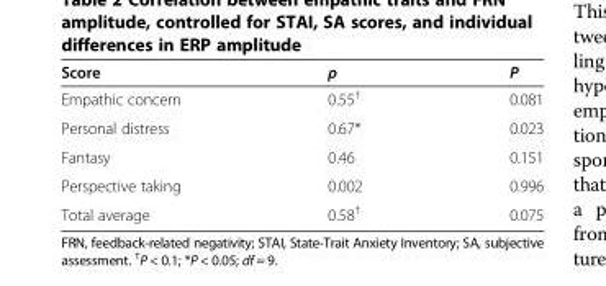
<table><thead><tr><td>Score</td><td>ρ</td><td>P</td></tr></thead><tbody><tr><td>Empathic concern</td><td>0.55<sup>†</sup></td><td>0.081</td></tr><tr><td>Personal distress</td><td>0.67*</td><td>0.023</td></tr><tr><td>Fantasy</td><td>0.46</td><td>0.151</td></tr><tr><td>Perspective taking</td><td>0.002</td><td>0.996</td></tr><tr><td>Total average</td><td>0.58<sup>†</sup></td><td>0.075</td></tr></tbody></table>